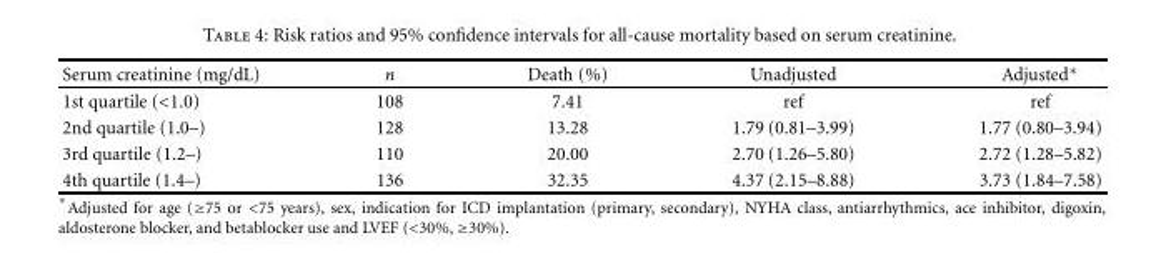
<table><thead><tr><td>Serum creatinine (mg/dL)</td><td>n</td><td>Death (%)</td><td>Unadjusted</td><td>Adjusted∗</td></tr></thead><tbody><tr><td>1st quartile (&lt;1.0)</td><td>108</td><td>7.41</td><td>ref</td><td>ref</td></tr><tr><td>2nd quartile (1.0–)</td><td>128</td><td>13.28</td><td>1.79 (0.81–3.99)</td><td>1.77 (0.80–3.94)</td></tr><tr><td>3rd quartile (1.2–)</td><td>110</td><td>20.00</td><td>2.70 (1.26–5.80)</td><td>2.72 (1.28–5.82)</td></tr><tr><td>4th quartile (1.4–)</td><td>136</td><td>32.35</td><td>4.37 (2.15–8.88)</td><td>3.73 (1.84–7.58)</td></tr></tbody></table>